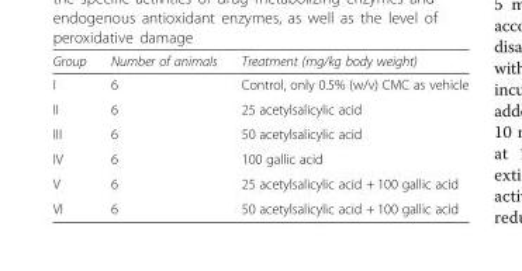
<table><thead><tr><td>Group</td><td>Number of animals</td><td>Treatment (mg/kg body weight)</td></tr></thead><tbody><tr><td>I</td><td>6</td><td>Control, only 0.5% (w/v) CMC as vehicle</td></tr><tr><td>II</td><td>6</td><td>25 acetylsalicylic acid</td></tr><tr><td>III</td><td>6</td><td>50 acetylsalicylic acid</td></tr><tr><td>IV</td><td>6</td><td>100 gallic acid</td></tr><tr><td>V</td><td>6</td><td>25 acetylsalicylic acid + 100 gallic acid</td></tr><tr><td>VI</td><td>6</td><td>50 acetylsalicylic acid + 100 gallic acid</td></tr></tbody></table>